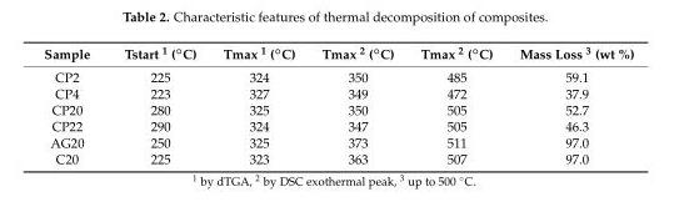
<table><thead><tr><td>Sample</td><td>Tstart 1 (◦C)</td><td>Tmax 1 (◦C)</td><td>Tmax 2 (◦C)</td><td>Tmax 2 (◦C)</td><td>Mass Loss <sup>3</sup> (wt %)</td></tr></thead><tbody><tr><td>CP2</td><td>225</td><td>324</td><td>350</td><td>485</td><td>59.1</td></tr><tr><td>CP4</td><td>223</td><td>327</td><td>349</td><td>472</td><td>37.9</td></tr><tr><td>CP20</td><td>280</td><td>325</td><td>350</td><td>505</td><td>52.7</td></tr><tr><td>CP22</td><td>290</td><td>324</td><td>347</td><td>505</td><td>46.3</td></tr><tr><td>AG20</td><td>250</td><td>325</td><td>373</td><td>511</td><td>97.0</td></tr><tr><td>C20</td><td>225</td><td>323</td><td>363</td><td>507</td><td>97.0</td></tr></tbody></table>